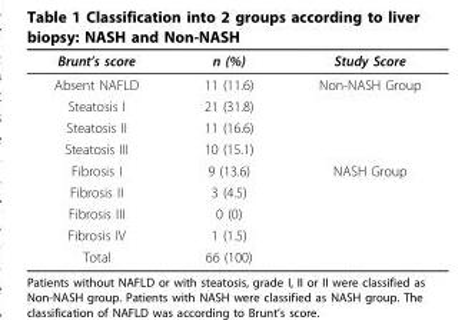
<table><thead><tr><td>Brunt’s score</td><td>n (%)</td><td>Study Score</td></tr></thead><tbody><tr><td>Absent NAFLD</td><td>11 (11.6)</td><td>Non-NASH Group</td></tr><tr><td>Steatosis I</td><td>21 (31.8)</td><td></td></tr><tr><td>Steatosis II</td><td>11 (16.6)</td><td></td></tr><tr><td>Steatosis III</td><td>10 (15.1)</td><td></td></tr><tr><td>Fibrosis I</td><td>9 (13.6)</td><td>NASH Group</td></tr><tr><td>Fibrosis II</td><td>3 (4.5)</td><td></td></tr><tr><td>Fibrosis III</td><td>0 (0)</td><td></td></tr><tr><td>Fibrosis IV</td><td>1 (1.5)</td><td></td></tr><tr><td>Total</td><td>66 (100)</td><td></td></tr></tbody></table>